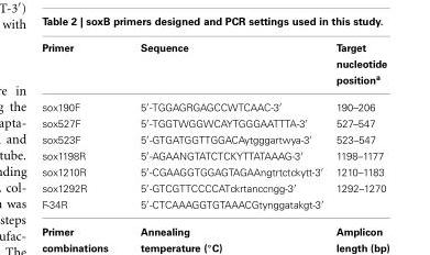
<table><thead><tr><td>Primer</td><td>Sequence</td><td>Target nucleotide position<sup>a</sup></td></tr></thead><tbody><tr><td>sox190F</td><td>5′-TGGAGRGAGCCWTCAAC-3′</td><td>190–206</td></tr><tr><td>sox527F</td><td>5′-TGGTWGGWCAYTGGGAATTTA-3′</td><td>527–547</td></tr><tr><td>sox523F</td><td>5′-GTGATGGTTGGACAytgggartwya-3′</td><td>523–547</td></tr><tr><td>sox1198R</td><td>5′-AGAANGTATCTCKYTTATAAAG-3′</td><td>1198–1177</td></tr><tr><td>sox1210R</td><td>5′-CGAAGGTGGAGTAGAAngtrtctckytt-3′</td><td>1210–1183</td></tr><tr><td>sox1292R</td><td>5′-GTCGTTCCCCATckrtanccngg-3′</td><td>1292–1270</td></tr><tr><td>F-34R</td><td>5′-CTCAAAGGTGTAAACGtynggatakgt-3′</td><td></td></tr></tbody></table>